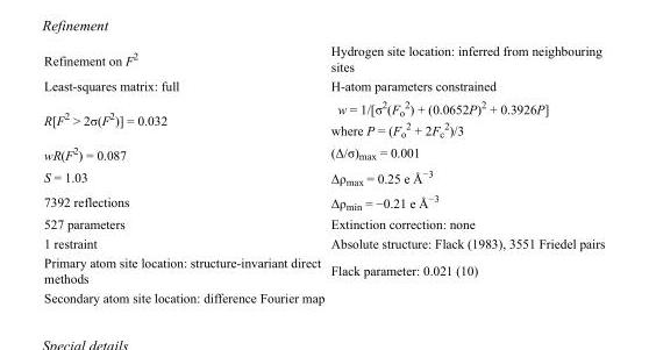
<table><tbody><tr><td>Refinement on F<sup>2</sup></td><td>Hydrogen site location: inferred from neighbouring sites</td></tr><tr><td>Least-squares matrix: full</td><td>H-atom parameters constrained</td></tr><tr><td>R[F<sup>2</sup> &gt; 2σ(F<sup>2</sup>)] = 0.032</td><td>w = 1/[σ<sup>2</sup>(F<sub>o</sub> <sup>2</sup>) + (0.0652P)<sup>2</sup> + 0.3926P] where P = (F<sub>o</sub> <sup>2</sup> + 2F<sub>c</sub> <sup>2</sup>)/3</td></tr><tr><td>wR(F<sup>2</sup>) = 0.087</td><td>(Δ/σ)<sub>max</sub> = 0.001</td></tr><tr><td>S = 1.03</td><td>Δρ<sub>max</sub> = 0.25 e Å<sup>−3</sup></td></tr><tr><td>7392 reflections</td><td>Δρ<sub>min</sub> = −0.21 e Å<sup>−3</sup></td></tr><tr><td>527 parameters</td><td>Extinction correction: none</td></tr><tr><td>1 restraint</td><td>Absolute structure: Flack (1983), 3551 Friedel pairs</td></tr><tr><td>Primary atom site location: structure-invariant direct methods</td><td>Flack parameter: 0.021 (10)</td></tr><tr><td>Secondary atom site location: difference Fourier map</td><td></td></tr></tbody></table>